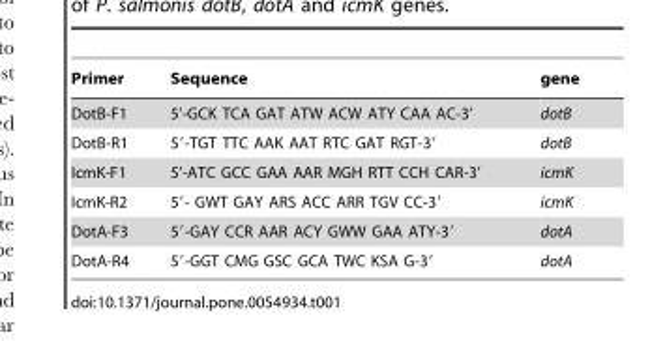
<table><thead><tr><td>Primer</td><td>Sequence</td><td>gene</td></tr></thead><tbody><tr><td>DotB-F1</td><td>5’-GCK TCA GAT ATW ACW ATY CAA AC-3’</td><td>dotB</td></tr><tr><td>DotB-R1</td><td>5′-TGT TTC AAK AAT RTC GAT RGT-3′</td><td>dotB</td></tr><tr><td>IcmK-F1</td><td>5’-ATC GCC GAA AAR MGH RTT CCH CAR-3’</td><td>icmK</td></tr><tr><td>IcmK-R2</td><td>5′- GWT GAY ARS ACC ARR TGV CC-3′</td><td>icmK</td></tr><tr><td>DotA-F3</td><td>5′-GAY CCR AAR ACY GWW GAA ATY-3′</td><td>dotA</td></tr><tr><td>DotA-R4</td><td>5′-GGT CMG GSC GCA TWC KSA G-3′</td><td>dotA</td></tr></tbody></table>